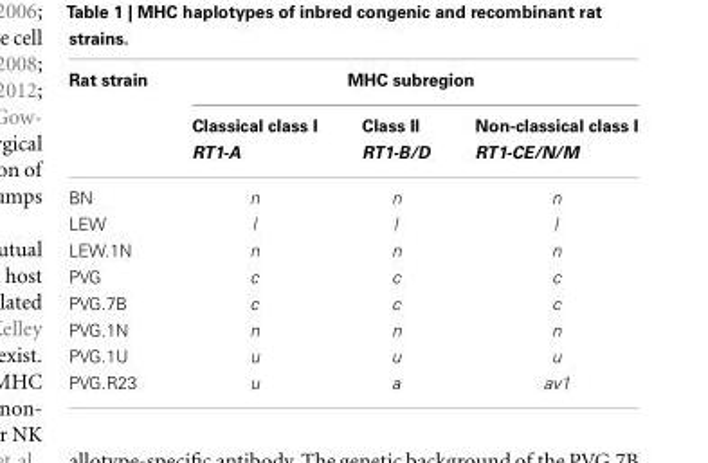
<table><thead><tr><td rowspan="3">Rat strain</td><td colspan="3">MHC subregion</td></tr><tr><td rowspan="2">Classical class I RT1-A</td><td rowspan="2">Class II RT1-B/D</td><td rowspan="2">Non-classical class I RT1-CE/N/M</td></tr><tr></tr></thead><tbody><tr><td>BN</td><td>n</td><td>n</td><td>n</td></tr><tr><td>LEW</td><td>l</td><td>l</td><td>l</td></tr><tr><td>LEW.1N</td><td>n</td><td>n</td><td>n</td></tr><tr><td>PVG</td><td>c</td><td>c</td><td>c</td></tr><tr><td>PVG.7B</td><td>c</td><td>c</td><td>c</td></tr><tr><td>PVG.1N</td><td>n</td><td>n</td><td>n</td></tr><tr><td>PVG.1U</td><td>u</td><td>u</td><td>u</td></tr><tr><td>PVG.R23</td><td>u</td><td>a</td><td>av1</td></tr></tbody></table>